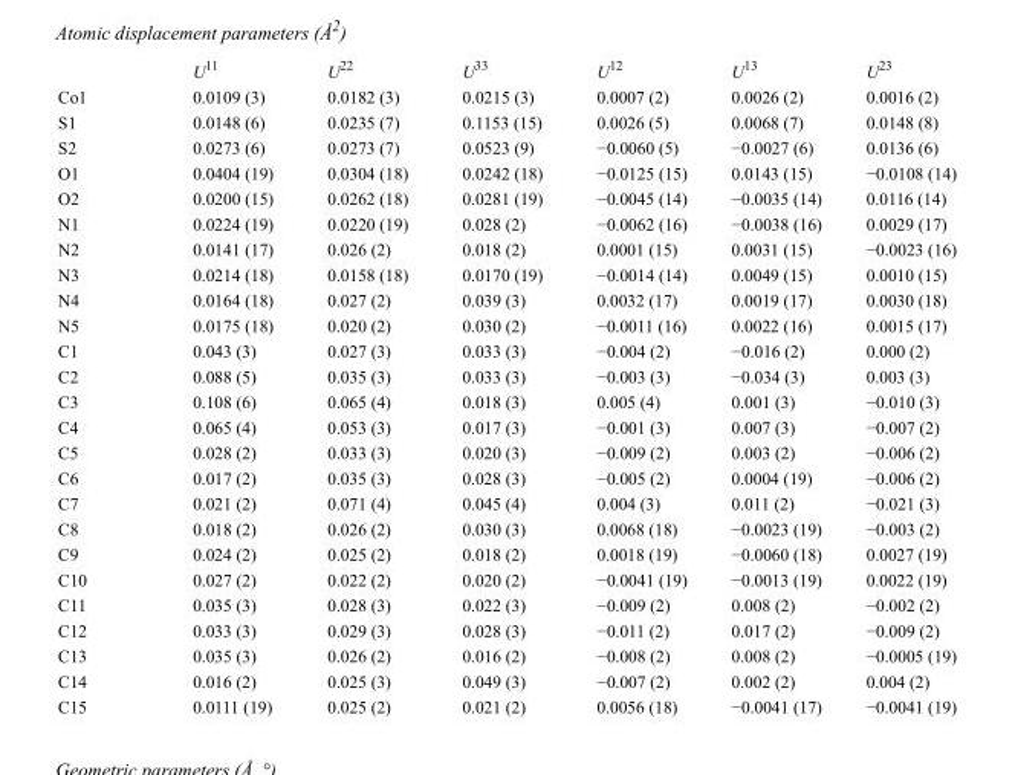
<table><thead><tr><td></td><td>U<sup>11</sup></td><td>U<sup>22</sup></td><td>U<sup>33</sup></td><td>U<sup>12</sup></td><td>U<sup>13</sup></td><td>U<sup>23</sup></td></tr></thead><tbody><tr><td>Co1</td><td>0.0109 (3)</td><td>0.0182 (3)</td><td>0.0215 (3)</td><td>0.0007 (2)</td><td>0.0026 (2)</td><td>0.0016 (2)</td></tr><tr><td>S1</td><td>0.0148 (6)</td><td>0.0235 (7)</td><td>0.1153 (15)</td><td>0.0026 (5)</td><td>0.0068 (7)</td><td>0.0148 (8)</td></tr><tr><td>S2</td><td>0.0273 (6)</td><td>0.0273 (7)</td><td>0.0523 (9)</td><td>−0.0060 (5)</td><td>−0.0027 (6)</td><td>0.0136 (6)</td></tr><tr><td>O1</td><td>0.0404 (19)</td><td>0.0304 (18)</td><td>0.0242 (18)</td><td>−0.0125 (15)</td><td>0.0143 (15)</td><td>−0.0108 (14)</td></tr><tr><td>O2</td><td>0.0200 (15)</td><td>0.0262 (18)</td><td>0.0281 (19)</td><td>−0.0045 (14)</td><td>−0.0035 (14)</td><td>0.0116 (14)</td></tr><tr><td>N1</td><td>0.0224 (19)</td><td>0.0220 (19)</td><td>0.028 (2)</td><td>−0.0062 (16)</td><td>−0.0038 (16)</td><td>0.0029 (17)</td></tr><tr><td>N2</td><td>0.0141 (17)</td><td>0.026 (2)</td><td>0.018 (2)</td><td>0.0001 (15)</td><td>0.0031 (15)</td><td>−0.0023 (16)</td></tr><tr><td>N3</td><td>0.0214 (18)</td><td>0.0158 (18)</td><td>0.0170 (19)</td><td>−0.0014 (14)</td><td>0.0049 (15)</td><td>0.0010 (15)</td></tr><tr><td>N4</td><td>0.0164 (18)</td><td>0.027 (2)</td><td>0.039 (3)</td><td>0.0032 (17)</td><td>0.0019 (17)</td><td>0.0030 (18)</td></tr><tr><td>N5</td><td>0.0175 (18)</td><td>0.020 (2)</td><td>0.030 (2)</td><td>−0.0011 (16)</td><td>0.0022 (16)</td><td>0.0015 (17)</td></tr><tr><td>C1</td><td>0.043 (3)</td><td>0.027 (3)</td><td>0.033 (3)</td><td>−0.004 (2)</td><td>−0.016 (2)</td><td>0.000 (2)</td></tr><tr><td>C2</td><td>0.088 (5)</td><td>0.035 (3)</td><td>0.033 (3)</td><td>−0.003 (3)</td><td>−0.034 (3)</td><td>0.003 (3)</td></tr><tr><td>C3</td><td>0.108 (6)</td><td>0.065 (4)</td><td>0.018 (3)</td><td>0.005 (4)</td><td>0.001 (3)</td><td>−0.010 (3)</td></tr><tr><td>C4</td><td>0.065 (4)</td><td>0.053 (3)</td><td>0.017 (3)</td><td>−0.001 (3)</td><td>0.007 (3)</td><td>−0.007 (2)</td></tr><tr><td>C5</td><td>0.028 (2)</td><td>0.033 (3)</td><td>0.020 (3)</td><td>−0.009 (2)</td><td>0.003 (2)</td><td>−0.006 (2)</td></tr><tr><td>C6</td><td>0.017 (2)</td><td>0.035 (3)</td><td>0.028 (3)</td><td>−0.005 (2)</td><td>0.0004 (19)</td><td>−0.006 (2)</td></tr><tr><td>C7</td><td>0.021 (2)</td><td>0.071 (4)</td><td>0.045 (4)</td><td>0.004 (3)</td><td>0.011 (2)</td><td>−0.021 (3)</td></tr><tr><td>C8</td><td>0.018 (2)</td><td>0.026 (2)</td><td>0.030 (3)</td><td>0.0068 (18)</td><td>−0.0023 (19)</td><td>−0.003 (2)</td></tr><tr><td>C9</td><td>0.024 (2)</td><td>0.025 (2)</td><td>0.018 (2)</td><td>0.0018 (19)</td><td>−0.0060 (18)</td><td>0.0027 (19)</td></tr><tr><td>C10</td><td>0.027 (2)</td><td>0.022 (2)</td><td>0.020 (2)</td><td>−0.0041 (19)</td><td>−0.0013 (19)</td><td>0.0022 (19)</td></tr><tr><td>C11</td><td>0.035 (3)</td><td>0.028 (3)</td><td>0.022 (3)</td><td>−0.009 (2)</td><td>0.008 (2)</td><td>−0.002 (2)</td></tr><tr><td>C12</td><td>0.033 (3)</td><td>0.029 (3)</td><td>0.028 (3)</td><td>−0.011 (2)</td><td>0.017 (2)</td><td>−0.009 (2)</td></tr><tr><td>C13</td><td>0.035 (3)</td><td>0.026 (2)</td><td>0.016 (2)</td><td>−0.008 (2)</td><td>0.008 (2)</td><td>−0.0005 (19)</td></tr><tr><td>C14</td><td>0.016 (2)</td><td>0.025 (3)</td><td>0.049 (3)</td><td>−0.007 (2)</td><td>0.002 (2)</td><td>0.004 (2)</td></tr><tr><td>C15</td><td>0.0111 (19)</td><td>0.025 (2)</td><td>0.021 (2)</td><td>0.0056 (18)</td><td>−0.0041 (17)</td><td>−0.0041 (19)</td></tr></tbody></table>